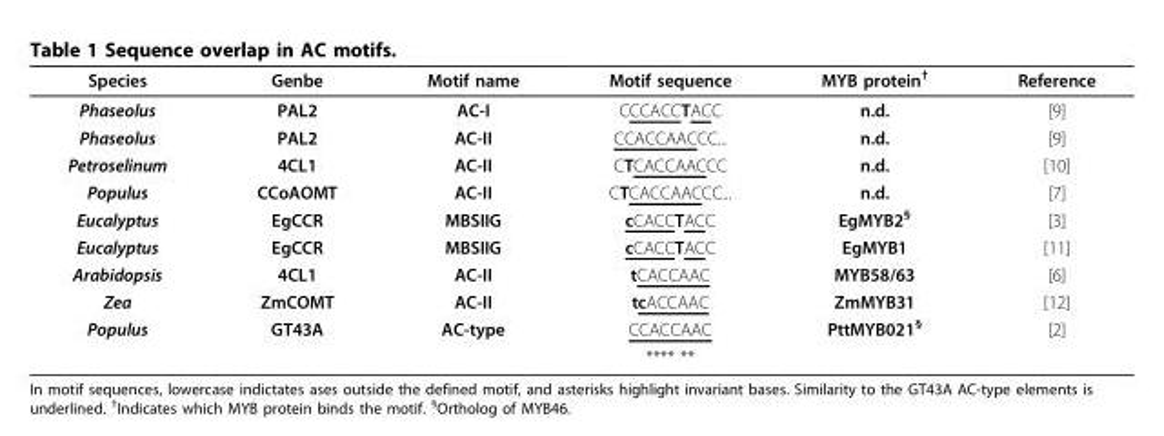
<table><thead><tr><td>Species</td><td>Genbe</td><td>Motif name</td><td>Motif sequence</td><td>MYB protein<sup>†</sup></td><td>Reference</td></tr></thead><tbody><tr><td>Phaseolus</td><td>PAL2</td><td>AC-I</td><td>CCCACCTACC</td><td>n.d.</td><td>[9]</td></tr><tr><td>Phaseolus</td><td>PAL2</td><td>AC-II</td><td>CCACCAACCC...</td><td>n.d.</td><td>[9]</td></tr><tr><td>Petroselinum</td><td>4CL1</td><td>AC-II</td><td>CTCACCAACCC</td><td>n.d.</td><td>[10]</td></tr><tr><td>Populus</td><td>CCoAOMT</td><td>AC-II</td><td>CTCACCAACCC...</td><td>n.d.</td><td>[7]</td></tr><tr><td>Eucalyptus</td><td>EgCCR</td><td>MBSIIG</td><td>cCACCTACC</td><td>EgMYB2<sup>§</sup></td><td>[3]</td></tr><tr><td>Eucalyptus</td><td>EgCCR</td><td>MBSIIG</td><td>cCACCTACC</td><td>EgMYB1</td><td>[11]</td></tr><tr><td>Arabidopsis</td><td>4CL1</td><td>AC-II</td><td>tCACCAAC</td><td>MYB58/63</td><td>[6]</td></tr><tr><td>Zea</td><td>ZmCOMT</td><td>AC-II</td><td>tcACCAAC</td><td>ZmMYB31</td><td>[12]</td></tr><tr><td rowspan="2">Populus</td><td>GT43A</td><td>AC-type</td><td>CCACCAAC</td><td>PttMYB021<sup>§</sup></td><td>[2]</td></tr><tr><td></td><td></td><td>**** **</td><td></td><td></td></tr></tbody></table>